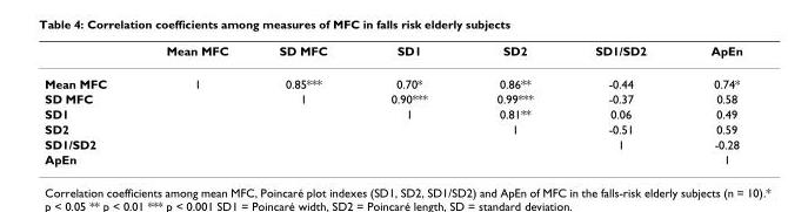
<table><thead><tr><td></td><td>Mean MFC</td><td>SD MFC</td><td>SD1</td><td>SD2</td><td>SD1/SD2</td><td>ApEn</td></tr></thead><tbody><tr><td>Mean MFC</td><td>1</td><td>0.85***</td><td>0.70*</td><td>0.86**</td><td>-0.44</td><td>0.74*</td></tr><tr><td>SD MFC</td><td></td><td>1</td><td>0.90***</td><td>0.99***</td><td>-0.37</td><td>0.58</td></tr><tr><td>SD1</td><td></td><td></td><td>1</td><td>0.81**</td><td>0.06</td><td>0.49</td></tr><tr><td>SD2</td><td></td><td></td><td></td><td>1</td><td>-0.51</td><td>0.59</td></tr><tr><td>SD1/SD2</td><td></td><td></td><td></td><td></td><td>1</td><td>-0.28</td></tr><tr><td>ApEn</td><td></td><td></td><td></td><td></td><td></td><td>1</td></tr></tbody></table>